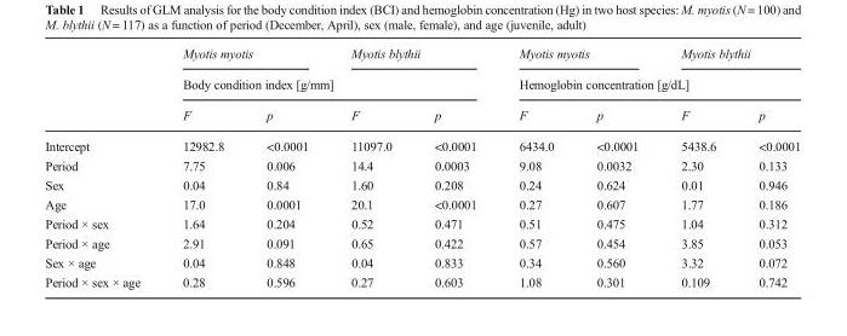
<table><thead><tr><td rowspan="3"></td><td colspan="2">Myotis myotis</td><td colspan="2">Myotis blythii</td><td colspan="2">Myotis myotis</td><td colspan="2">Myotis blythii</td></tr><tr><td colspan="4">Body condition index [g/mm]</td><td colspan="4">Hemoglobin concentration [g/dL]</td></tr><tr><td>F</td><td>p</td><td>F</td><td>p</td><td>F</td><td>p</td><td>F</td><td>p</td></tr></thead><tbody><tr><td>Intercept</td><td>12982.8</td><td>&lt;0.0001</td><td>11097.0</td><td>&lt;0.0001</td><td>6434.0</td><td>&lt;0.0001</td><td>5438.6</td><td>&lt;0.0001</td></tr><tr><td>Period</td><td>7.75</td><td>0.006</td><td>14.4</td><td>0.0003</td><td>9.08</td><td>0.0032</td><td>2.30</td><td>0.133</td></tr><tr><td>Sex</td><td>0.04</td><td>0.84</td><td>1.60</td><td>0.208</td><td>0.24</td><td>0.624</td><td>0.01</td><td>0.946</td></tr><tr><td>Age</td><td>17.0</td><td>0.0001</td><td>20.1</td><td>&lt;0.0001</td><td>0.27</td><td>0.607</td><td>1.77</td><td>0.186</td></tr><tr><td>Period × sex</td><td>1.64</td><td>0.204</td><td>0.52</td><td>0.471</td><td>0.51</td><td>0.475</td><td>1.04</td><td>0.312</td></tr><tr><td>Period × age</td><td>2.91</td><td>0.091</td><td>0.65</td><td>0.422</td><td>0.57</td><td>0.454</td><td>3.85</td><td>0.053</td></tr><tr><td>Sex × age</td><td>0.04</td><td>0.848</td><td>0.04</td><td>0.833</td><td>0.34</td><td>0.560</td><td>3.32</td><td>0.072</td></tr><tr><td>Period × sex × age</td><td>0.28</td><td>0.596</td><td>0.27</td><td>0.603</td><td>1.08</td><td>0.301</td><td>0.109</td><td>0.742</td></tr></tbody></table>